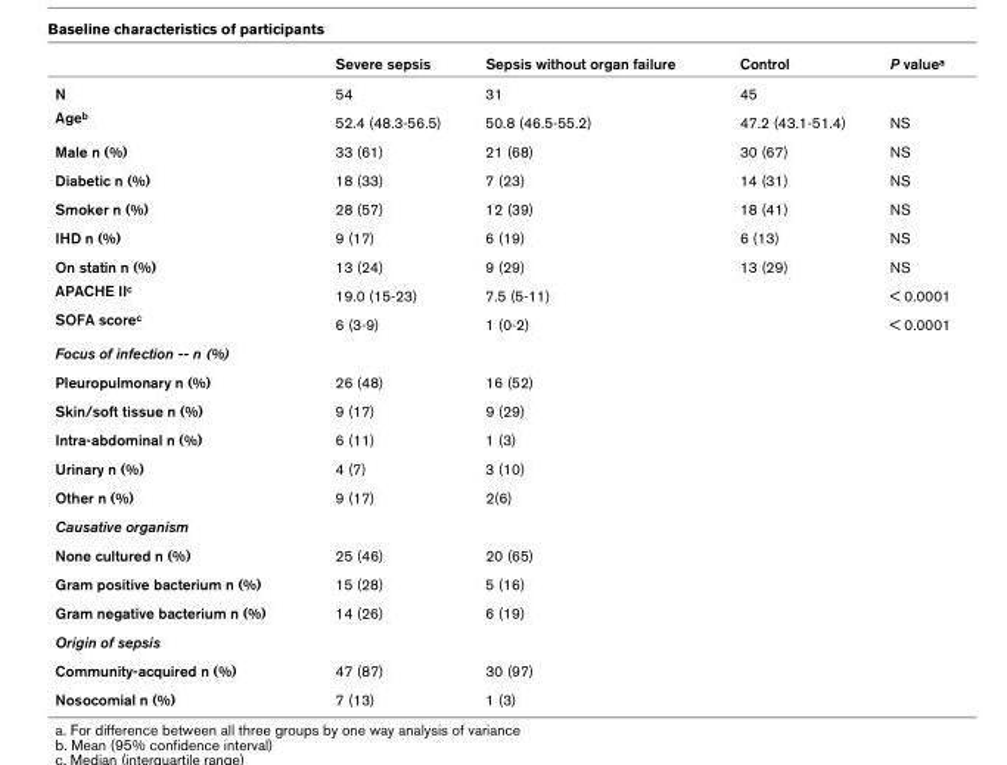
<table><thead><tr><td></td><td>Severe sepsis</td><td>Sepsis without organ failure</td><td>Control</td><td>P value<sup>a</sup></td></tr></thead><tbody><tr><td>N</td><td>54</td><td>31</td><td>45</td><td></td></tr><tr><td>Age<sup>b</sup></td><td>52.4 (48.3-56.5)</td><td>50.8 (46.5-55.2)</td><td>47.2 (43.1-51.4)</td><td>NS</td></tr><tr><td>Male n (%)</td><td>33 (61)</td><td>21 (68)</td><td>30 (67)</td><td>NS</td></tr><tr><td>Diabetic n (%)</td><td>18 (33)</td><td>7 (23)</td><td>14 (31)</td><td>NS</td></tr><tr><td>Smoker n (%)</td><td>28 (57)</td><td>12 (39)</td><td>18 (41)</td><td>NS</td></tr><tr><td>IHD n (%)</td><td>9 (17)</td><td>6 (19)</td><td>6 (13)</td><td>NS</td></tr><tr><td>On statin n (%)</td><td>13 (24)</td><td>9 (29)</td><td>13 (29)</td><td>NS</td></tr><tr><td>APACHE II<sup>c</sup></td><td>19.0 (15-23)</td><td>7.5 (5-11)</td><td></td><td>&lt; 0.0001</td></tr><tr><td>SOFA score<sup>c</sup></td><td>6 (3-9)</td><td>1 (0-2)</td><td></td><td>&lt; 0.0001</td></tr><tr><td colspan="5">Focus of infection -- n (%)</td></tr><tr><td>Pleuropulmonary n (%)</td><td>26 (48)</td><td>16 (52)</td><td></td><td></td></tr><tr><td>Skin/soft tissue n (%)</td><td>9 (17)</td><td>9 (29)</td><td></td><td></td></tr><tr><td>Intra-abdominal n (%)</td><td>6 (11)</td><td>1 (3)</td><td></td><td></td></tr><tr><td>Urinary n (%)</td><td>4 (7)</td><td>3 (10)</td><td></td><td></td></tr><tr><td>Other n (%)</td><td>9 (17)</td><td>2(6)</td><td></td><td></td></tr><tr><td colspan="5">Causative organism</td></tr><tr><td>None cultured n (%)</td><td>25 (46)</td><td>20 (65)</td><td></td><td></td></tr><tr><td>Gram positive bacterium n (%)</td><td>15 (28)</td><td>5 (16)</td><td></td><td></td></tr><tr><td>Gram negative bacterium n (%)</td><td>14 (26)</td><td>6 (19)</td><td></td><td></td></tr><tr><td colspan="5">Origin of sepsis</td></tr><tr><td>Community-acquired n (%)</td><td>47 (87)</td><td>30 (97)</td><td></td><td></td></tr><tr><td>Nosocomial n (%)</td><td>7 (13)</td><td>1 (3)</td><td></td><td></td></tr></tbody></table>